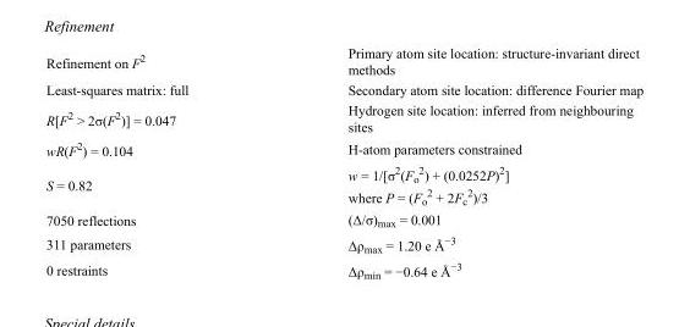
<table><tbody><tr><td>Refinement on F<sup>2</sup></td><td>Primary atom site location: structure-invariant direct methods</td></tr><tr><td>Least-squares matrix: full</td><td>Secondary atom site location: difference Fourier map</td></tr><tr><td>R[F<sup>2</sup> &gt; 2σ(F<sup>2</sup>)] = 0.047</td><td>Hydrogen site location: inferred from neighbouring sites</td></tr><tr><td>wR(F<sup>2</sup>) = 0.104</td><td>H-atom parameters constrained</td></tr><tr><td>S = 0.82</td><td>w = 1/[σ<sup>2</sup>(F<sub>o</sub> <sup>2</sup>) + (0.0252P)<sup>2</sup>] where P = (F<sub>o</sub> <sup>2</sup> + 2F<sub>c</sub> <sup>2</sup>)/3</td></tr><tr><td>7050 reflections</td><td>(Δ/σ)<sub>max</sub> = 0.001</td></tr><tr><td>311 parameters</td><td>Δρ<sub>max</sub> = 1.20 e Å<sup>−3</sup></td></tr><tr><td>0 restraints</td><td>Δρ<sub>min</sub> = −0.64 e Å<sup>−3</sup></td></tr></tbody></table>